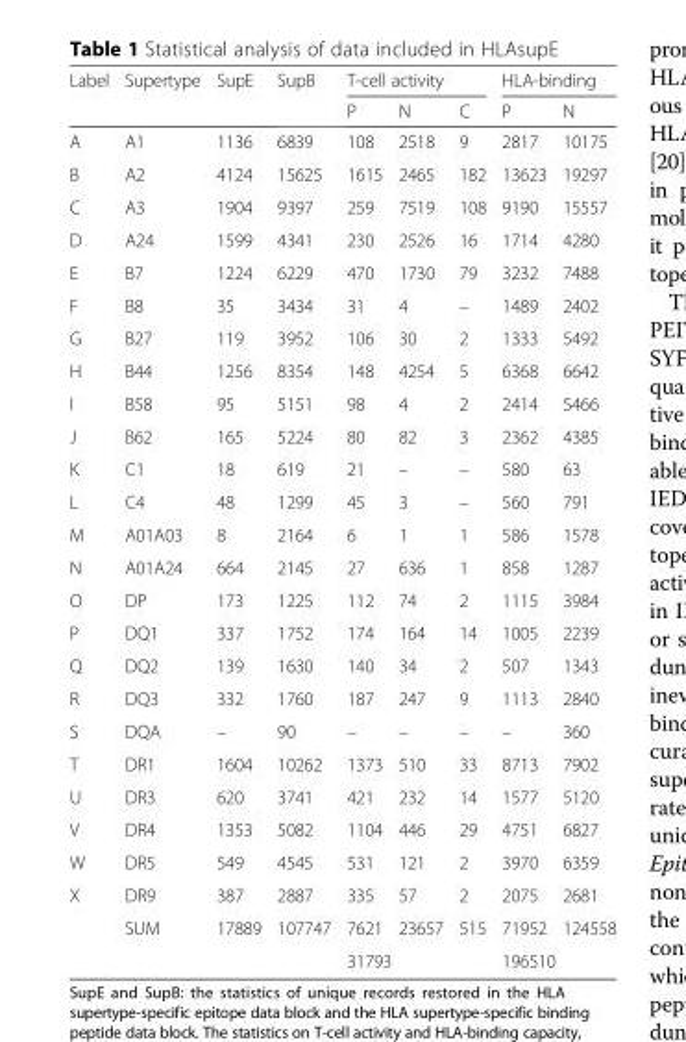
<table><thead><tr><td rowspan="2">Label</td><td rowspan="2">Supertype</td><td rowspan="2">SupE</td><td rowspan="2">SupB</td><td colspan="3">T-cell activity</td><td colspan="2">HLA-binding</td></tr><tr><td>P</td><td>N</td><td>C</td><td>P</td><td>N</td></tr></thead><tbody><tr><td>A</td><td>A1</td><td>1136</td><td>6839</td><td>108</td><td>2518</td><td>9</td><td>2817</td><td>10175</td></tr><tr><td>B</td><td>A2</td><td>4124</td><td>15625</td><td>1615</td><td>2465</td><td>182</td><td>13623</td><td>19297</td></tr><tr><td>C</td><td>A3</td><td>1904</td><td>9397</td><td>259</td><td>7519</td><td>108</td><td>9190</td><td>15557</td></tr><tr><td>D</td><td>A24</td><td>1599</td><td>4341</td><td>230</td><td>2526</td><td>16</td><td>1714</td><td>4280</td></tr><tr><td>E</td><td>B7</td><td>1224</td><td>6229</td><td>470</td><td>1730</td><td>79</td><td>3232</td><td>7488</td></tr><tr><td>F</td><td>B8</td><td>35</td><td>3434</td><td>31</td><td>4</td><td>–</td><td>1489</td><td>2402</td></tr><tr><td>G</td><td>B27</td><td>119</td><td>3952</td><td>106</td><td>30</td><td>2</td><td>1333</td><td>5492</td></tr><tr><td>H</td><td>B44</td><td>1256</td><td>8354</td><td>148</td><td>4254</td><td>5</td><td>6368</td><td>6642</td></tr><tr><td>I</td><td>B58</td><td>95</td><td>5151</td><td>98</td><td>4</td><td>2</td><td>2414</td><td>5466</td></tr><tr><td>J</td><td>B62</td><td>165</td><td>5224</td><td>80</td><td>82</td><td>3</td><td>2362</td><td>4385</td></tr><tr><td>K</td><td>C1</td><td>18</td><td>619</td><td>21</td><td>–</td><td>–</td><td>580</td><td>63</td></tr><tr><td>L</td><td>C4</td><td>48</td><td>1299</td><td>45</td><td>3</td><td>–</td><td>560</td><td>791</td></tr><tr><td>M</td><td>A01A03</td><td>8</td><td>2164</td><td>6</td><td>1</td><td>1</td><td>586</td><td>1578</td></tr><tr><td>N</td><td>A01A24</td><td>664</td><td>2145</td><td>27</td><td>636</td><td>1</td><td>858</td><td>1287</td></tr><tr><td>O</td><td>DP</td><td>173</td><td>1225</td><td>112</td><td>74</td><td>2</td><td>1115</td><td>3984</td></tr><tr><td>P</td><td>DQ1</td><td>337</td><td>1752</td><td>174</td><td>164</td><td>14</td><td>1005</td><td>2239</td></tr><tr><td>Q</td><td>DQ2</td><td>139</td><td>1630</td><td>140</td><td>34</td><td>2</td><td>507</td><td>1343</td></tr><tr><td>R</td><td>DQ3</td><td>332</td><td>1760</td><td>187</td><td>247</td><td>9</td><td>1113</td><td>2840</td></tr><tr><td>S</td><td>DQA</td><td>–</td><td>90</td><td>–</td><td>–</td><td>–</td><td>–</td><td>360</td></tr><tr><td>T</td><td>DR1</td><td>1604</td><td>10262</td><td>1373</td><td>510</td><td>33</td><td>8713</td><td>7902</td></tr><tr><td>U</td><td>DR3</td><td>620</td><td>3741</td><td>421</td><td>232</td><td>14</td><td>1577</td><td>5120</td></tr><tr><td>V</td><td>DR4</td><td>1353</td><td>5082</td><td>1104</td><td>446</td><td>29</td><td>4751</td><td>6827</td></tr><tr><td>W</td><td>DR5</td><td>549</td><td>4545</td><td>531</td><td>121</td><td>2</td><td>3970</td><td>6359</td></tr><tr><td rowspan="3">X</td><td>DR9</td><td>387</td><td>2887</td><td>335</td><td>57</td><td>2</td><td>2075</td><td>2681</td></tr><tr><td rowspan="2">SUM</td><td rowspan="2">17889</td><td rowspan="2">107747</td><td>7621</td><td>23657</td><td>515</td><td>71952</td><td>124558</td></tr><tr><td colspan="3">31793</td><td colspan="2">196510</td></tr></tbody></table>